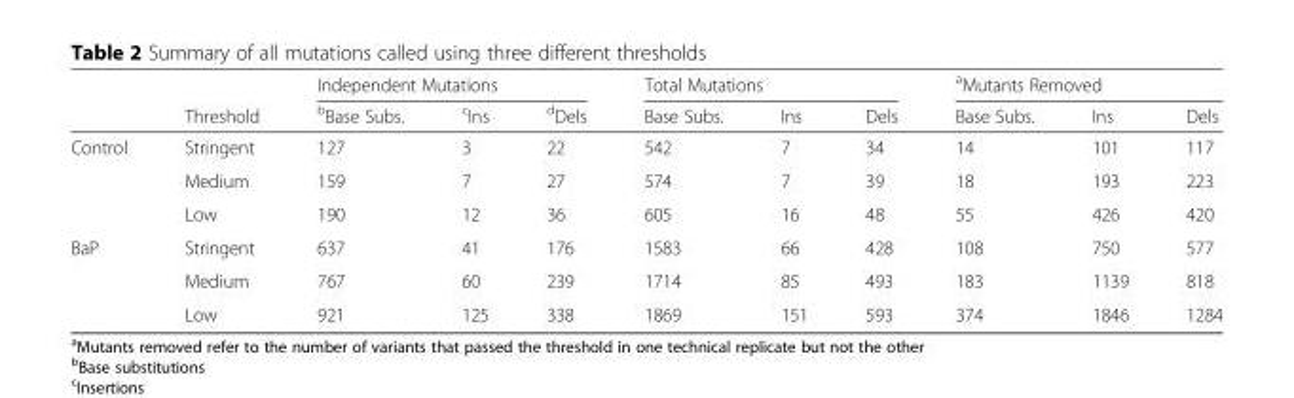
<table><thead><tr><td rowspan="2"></td><td rowspan="2">Threshold</td><td colspan="3">Independent Mutations</td><td colspan="3">Total Mutations</td><td colspan="3"><sup>a</sup>Mutants Removed</td></tr><tr><td><sup>b</sup>Base Subs.</td><td><sup>c</sup>Ins</td><td><sup>d</sup>Dels</td><td>Base Subs.</td><td>Ins</td><td>Dels</td><td>Base Subs.</td><td>Ins</td><td>Dels</td></tr></thead><tbody><tr><td rowspan="3">Control</td><td>Stringent</td><td>127</td><td>3</td><td>22</td><td>542</td><td>7</td><td>34</td><td>14</td><td>101</td><td>117</td></tr><tr><td>Medium</td><td>159</td><td>7</td><td>27</td><td>574</td><td>7</td><td>39</td><td>18</td><td>193</td><td>223</td></tr><tr><td>Low</td><td>190</td><td>12</td><td>36</td><td>605</td><td>16</td><td>48</td><td>55</td><td>426</td><td>420</td></tr><tr><td rowspan="3">BaP</td><td>Stringent</td><td>637</td><td>41</td><td>176</td><td>1583</td><td>66</td><td>428</td><td>108</td><td>750</td><td>577</td></tr><tr><td>Medium</td><td>767</td><td>60</td><td>239</td><td>1714</td><td>85</td><td>493</td><td>183</td><td>1139</td><td>818</td></tr><tr><td>Low</td><td>921</td><td>125</td><td>338</td><td>1869</td><td>151</td><td>593</td><td>374</td><td>1846</td><td>1284</td></tr></tbody></table>